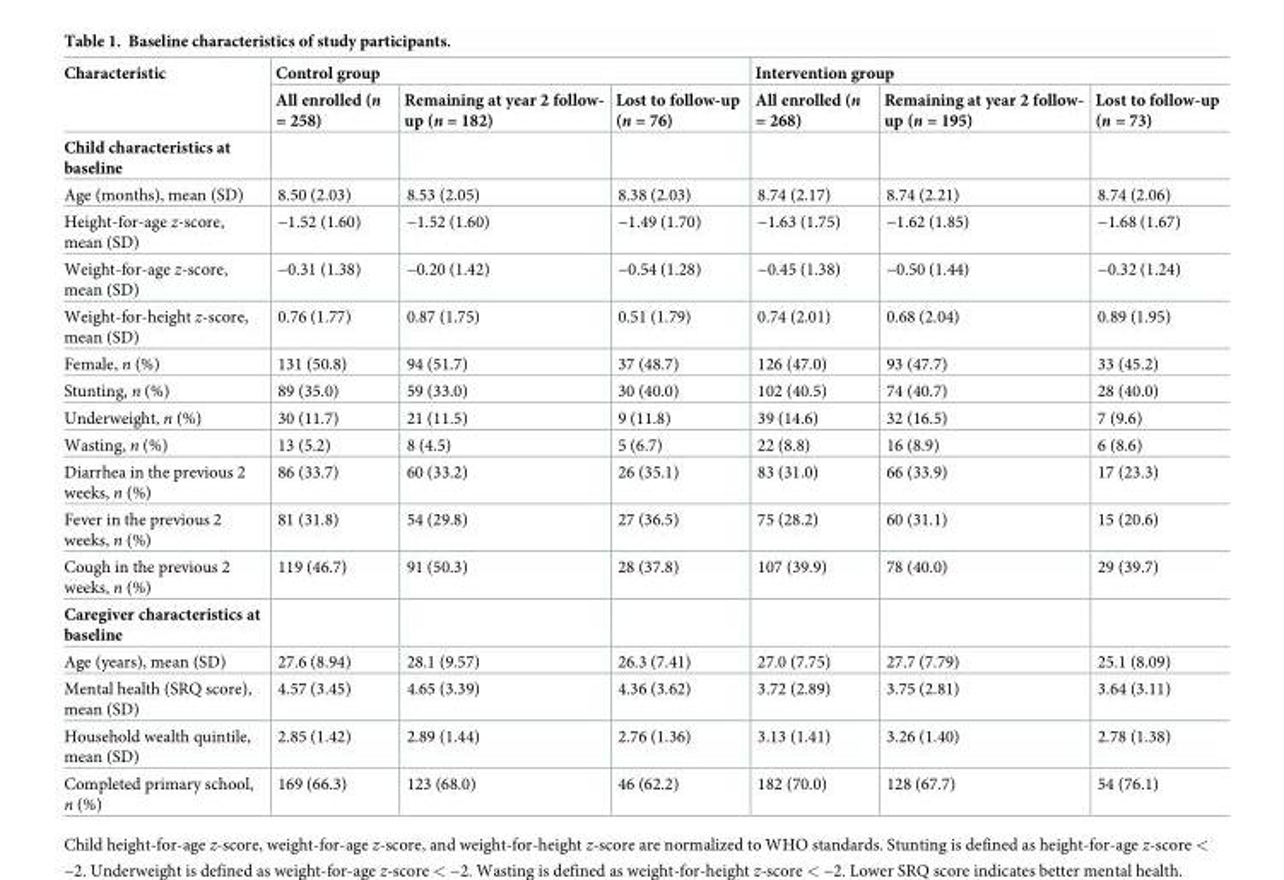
<table><thead><tr><td rowspan="2">Characteristic</td><td colspan="3">Control group</td><td colspan="3">Intervention group</td></tr><tr><td>All enrolled (n = 258)</td><td>Remaining at year 2 follow- up (n = 182)</td><td>Lost to follow-up (n = 76)</td><td>All enrolled (n = 268)</td><td>Remaining at year 2 follow- up (n = 195)</td><td>Lost to follow-up (n = 73)</td></tr></thead><tbody><tr><td colspan="7">Child characteristics at baseline</td></tr><tr><td>Age (months), mean (SD)</td><td>8.50 (2.03)</td><td>8.53 (2.05)</td><td>8.38 (2.03)</td><td>8.74 (2.17)</td><td>8.74 (2.21)</td><td>8.74 (2.06)</td></tr><tr><td>Height-for-age z-score, mean (SD)</td><td>−1.52 (1.60)</td><td>−1.52 (1.60)</td><td>−1.49 (1.70)</td><td>−1.63 (1.75)</td><td>−1.62 (1.85)</td><td>−1.68 (1.67)</td></tr><tr><td>Weight-for-age z-score, mean (SD)</td><td>−0.31 (1.38)</td><td>−0.20 (1.42)</td><td>−0.54 (1.28)</td><td>−0.45 (1.38)</td><td>−0.50 (1.44)</td><td>−0.32 (1.24)</td></tr><tr><td>Weight-for-height z-score, mean (SD)</td><td>0.76 (1.77)</td><td>0.87 (1.75)</td><td>0.51 (1.79)</td><td>0.74 (2.01)</td><td>0.68 (2.04)</td><td>0.89 (1.95)</td></tr><tr><td>Female, n (%)</td><td>131 (50.8)</td><td>94 (51.7)</td><td>37 (48.7)</td><td>126 (47.0)</td><td>93 (47.7)</td><td>33 (45.2)</td></tr><tr><td>Stunting, n (%)</td><td>89 (35.0)</td><td>59 (33.0)</td><td>30 (40.0)</td><td>102 (40.5)</td><td>74 (40.7)</td><td>28 (40.0)</td></tr><tr><td>Underweight, n (%)</td><td>30 (11.7)</td><td>21 (11.5)</td><td>9 (11.8)</td><td>39 (14.6)</td><td>32 (16.5)</td><td>7 (9.6)</td></tr><tr><td>Wasting, n (%)</td><td>13 (5.2)</td><td>8 (4.5)</td><td>5 (6.7)</td><td>22 (8.8)</td><td>16 (8.9)</td><td>6 (8.6)</td></tr><tr><td>Diarrhea in the previous 2 weeks, n (%)</td><td>86 (33.7)</td><td>60 (33.2)</td><td>26 (35.1)</td><td>83 (31.0)</td><td>66 (33.9)</td><td>17 (23.3)</td></tr><tr><td>Fever in the previous 2 weeks, n (%)</td><td>81 (31.8)</td><td>54 (29.8)</td><td>27 (36.5)</td><td>75 (28.2)</td><td>60 (31.1)</td><td>15 (20.6)</td></tr><tr><td>Cough in the previous 2 weeks, n (%)</td><td>119 (46.7)</td><td>91 (50.3)</td><td>28 (37.8)</td><td>107 (39.9)</td><td>78 (40.0)</td><td>29 (39.7)</td></tr><tr><td colspan="7">Caregiver characteristics at baseline</td></tr><tr><td>Age (years), mean (SD)</td><td>27.6 (8.94)</td><td>28.1 (9.57)</td><td>26.3 (7.41)</td><td>27.0 (7.75)</td><td>27.7 (7.79)</td><td>25.1 (8.09)</td></tr><tr><td>Mental health (SRQ score), mean (SD)</td><td>4.57 (3.45)</td><td>4.65 (3.39)</td><td>4.36 (3.62)</td><td>3.72 (2.89)</td><td>3.75 (2.81)</td><td>3.64 (3.11)</td></tr><tr><td>Household wealth quintile, mean (SD)</td><td>2.85 (1.42)</td><td>2.89 (1.44)</td><td>2.76 (1.36)</td><td>3.13 (1.41)</td><td>3.26 (1.40)</td><td>2.78 (1.38)</td></tr><tr><td>Completed primary school, n (%)</td><td>169 (66.3)</td><td>123 (68.0)</td><td>46 (62.2)</td><td>182 (70.0)</td><td>128 (67.7)</td><td>54 (76.1)</td></tr></tbody></table>